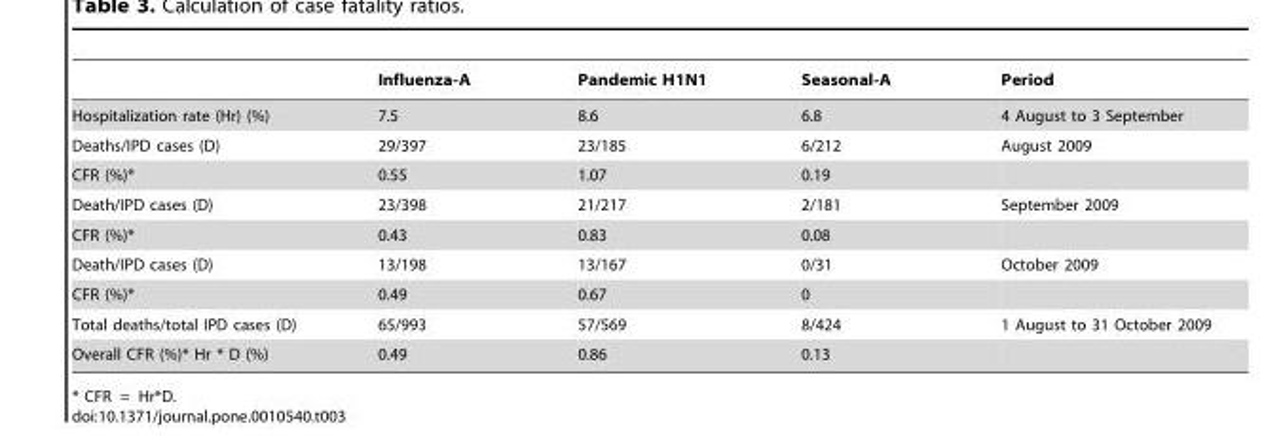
<table><thead><tr><td></td><td>Influenza-A</td><td>Pandemic H1N1</td><td>Seasonal-A</td><td>Period</td></tr></thead><tbody><tr><td>Hospitalization rate (Hr) (%)</td><td>7.5</td><td>8.6</td><td>6.8</td><td>4 August to 3 September</td></tr><tr><td>Deaths/IPD cases (D)</td><td>29/397</td><td>23/185</td><td>6/212</td><td>August 2009</td></tr><tr><td>CFR (%)*</td><td>0.55</td><td>1.07</td><td>0.19</td><td></td></tr><tr><td>Death/IPD cases (D)</td><td>23/398</td><td>21/217</td><td>2/181</td><td>September 2009</td></tr><tr><td>CFR (%)*</td><td>0.43</td><td>0.83</td><td>0.08</td><td></td></tr><tr><td>Death/IPD cases (D)</td><td>13/198</td><td>13/167</td><td>0/31</td><td>October 2009</td></tr><tr><td>CFR (%)*</td><td>0.49</td><td>0.67</td><td>0</td><td></td></tr><tr><td>Total deaths/total IPD cases (D)</td><td>65/993</td><td>57/569</td><td>8/424</td><td>1 August to 31 October 2009</td></tr><tr><td>Overall CFR (%)* Hr * D (%)</td><td>0.49</td><td>0.86</td><td>0.13</td><td></td></tr></tbody></table>